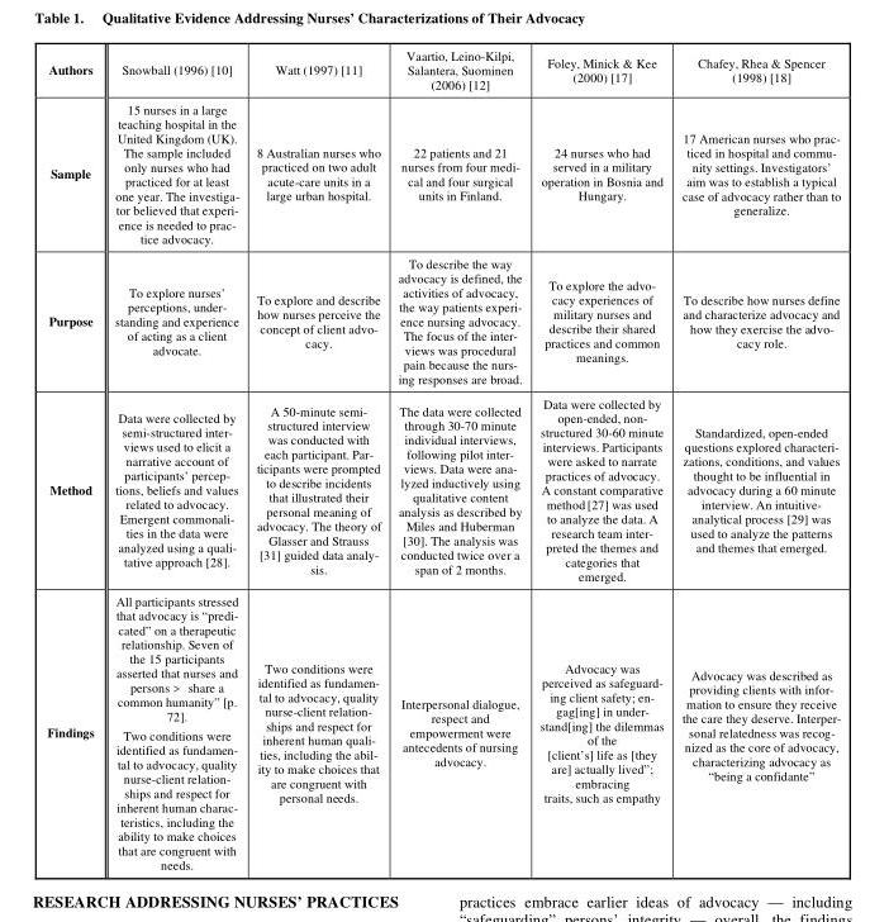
<table><tbody><tr><td>Authors</td><td>Snowball (1996) [10]</td><td>Watt (1997) [11]</td><td>Vaartio, Leino-Kilpi, Salantera, Suominen (2006) [12]</td><td>Foley, Minick &amp; Kee (2000) [17]</td><td>Chafey, Rhea &amp; Spencer (1998) [18]</td></tr><tr><td>Sample</td><td>15 nurses in a large teaching hospital in the United Kingdom (UK). The sample included only nurses who had practiced for at least one year. The investiga- tor believed that experi- ence is needed to prac- tice advocacy.</td><td>8 Australian nurses who practiced on two adult acute-care units in a large urban hospital.</td><td>22 patients and 21 nurses from four medi- cal and four surgical units in Finland.</td><td>24 nurses who had served in a military operation in Bosnia and Hungary.</td><td>17 American nurses who prac- ticed in hospital and commu- nity settings. Investigators’ aim was to establish a typical case of advocacy rather than to generalize.</td></tr><tr><td>Purpose</td><td>To explore nurses’ perceptions, under- standing and experience of acting as a client advocate.</td><td>To explore and describe how nurses perceive the concept of client advo- cacy.</td><td>To describe the way advocacy is defined, the activities of advocacy, the way patients experi- ence nursing advocacy. The focus of the inter- views was procedural pain because the nurs- ing responses are broad.</td><td>To explore the advo- cacy experiences of military nurses and describe their shared practices and common meanings.</td><td>To describe how nurses define and characterize advocacy and how they exercise the advo- cacy role.</td></tr><tr><td>Method</td><td>Data were collected by semi-structured inter- views used to elicit a narrative account of participants’ percep- tions, beliefs and values related to advocacy. Emergent commonali- ties in the data were analyzed using a quali- tative approach [28].</td><td>A 50-minute semi- structured interview was conducted with each participant. Par- ticipants were prompted to describe incidents that illustrated their personal meaning of advocacy. The theory of Glasser and Strauss [31] guided data analy- sis.</td><td>The data were collected through 30-70 minute individual interviews, following pilot inter- views. Data were ana- lyzed inductively using qualitative content analysis as described by Miles and Huberman [30]. The analysis was conducted twice over a span of 2 months.</td><td>Data were collected by open-ended, non- structured 30-60 minute interviews. Participants were asked to narrate practices of advocacy. A constant comparative method [27] was used to analyze the data. A research team inter- preted the themes and categories that emerged.</td><td>Standardized, open-ended questions explored characteri- zations, conditions, and values thought to be influential in advocacy during a 60 minute interview. An intuitive- analytical process [29] was used to analyze the patterns and themes that emerged.</td></tr><tr><td>Findings</td><td>All participants stressed that advocacy is “predi- cated” on a therapeutic relationship. Seven of the 15 participants asserted that nurses and persons &gt; share a common humanity” [p. 72]. Two conditions were identified as fundamen- tal to advocacy, quality nurse-client relation- ships and respect for inherent human charac- teristics, including the ability to make choices that are congruent with needs.</td><td>Two conditions were identified as fundamen- tal to advocacy, quality nurse-client relation- ships and respect for inherent human quali- ties, including the abil- ity to make choices that are congruent with personal needs.</td><td>Interpersonal dialogue, respect and empowerment were antecedents of nursing advocacy.</td><td>Advocacy was perceived as safeguard- ing client safety; en- gag[ing] in under- stand[ing] the dilemmas of the [client’s] life as [they are] actually lived”; embracing traits, such as empathy</td><td>Advocacy was described as providing clients with infor- mation to ensure they receive the care they deserve. Interper- sonal relatedness was recog- nized as the core of advocacy, characterizing advocacy as “being a confidante”</td></tr></tbody></table>